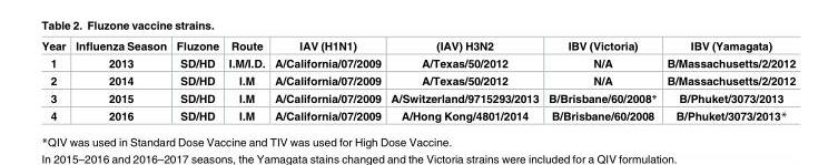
<table><thead><tr><td>Year</td><td>Influenza Season</td><td>Fluzone</td><td>Route</td><td>IAV (H1N1)</td><td>(IAV) H3N2</td><td>IBV (Victoria)</td><td>IBV (Yamagata)</td></tr></thead><tbody><tr><td>1</td><td>2013</td><td>SD/HD</td><td>I.M/I.D.</td><td>A/California/07/2009</td><td>A/Texas/50/2012</td><td>N/A</td><td>B/Massachusetts/2/2012</td></tr><tr><td>2</td><td>2014</td><td>SD/HD</td><td>I.M</td><td>A/California/07/2009</td><td>A/Texas/50/2012</td><td>N/A</td><td>B/Massachusetts/2/2012</td></tr><tr><td>3</td><td>2015</td><td>SD/HD</td><td>I.M</td><td>A/California/07/2009</td><td>A/Switzerland/9715293/2013</td><td>B/Brisbane/60/2008*</td><td>B/Phuket/3073/2013</td></tr><tr><td>4</td><td>2016</td><td>SD/HD</td><td>I.M</td><td>A/California/07/2009</td><td>A/Hong Kong/4801/2014</td><td>B/Brisbane/60/2008</td><td>B/Phuket/3073/2013*</td></tr></tbody></table>